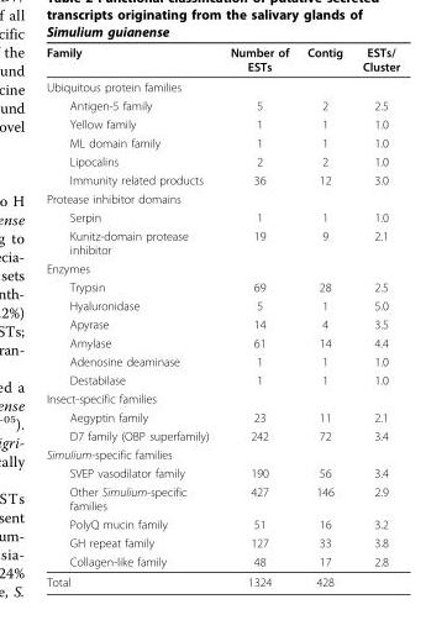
<table><thead><tr><td>Family</td><td>Number of ESTs</td><td>Contig</td><td>ESTs/ Cluster</td></tr></thead><tbody><tr><td colspan="4">Ubiquitous protein families</td></tr><tr><td>Antigen-5 family</td><td>5</td><td>2</td><td>2.5</td></tr><tr><td>Yellow family</td><td>1</td><td>1</td><td>1.0</td></tr><tr><td>ML domain family</td><td>1</td><td>1</td><td>1.0</td></tr><tr><td>Lipocalins</td><td>2</td><td>2</td><td>1.0</td></tr><tr><td>Immunity related products</td><td>36</td><td>12</td><td>3.0</td></tr><tr><td colspan="4">Protease inhibitor domains</td></tr><tr><td>Serpin</td><td>1</td><td>1</td><td>1.0</td></tr><tr><td>Kunitz-domain protease inhibitor</td><td>19</td><td>9</td><td>2.1</td></tr><tr><td colspan="4">Enzymes</td></tr><tr><td>Trypsin</td><td>69</td><td>28</td><td>2.5</td></tr><tr><td>Hyaluronidase</td><td>5</td><td>1</td><td>5.0</td></tr><tr><td>Apyrase</td><td>14</td><td>4</td><td>3.5</td></tr><tr><td>Amylase</td><td>61</td><td>14</td><td>4.4</td></tr><tr><td>Adenosine deaminase</td><td>1</td><td>1</td><td>1.0</td></tr><tr><td>Destabilase</td><td>1</td><td>1</td><td>1.0</td></tr><tr><td colspan="4">Insect-specific families</td></tr><tr><td>Aegyptin family</td><td>23</td><td>11</td><td>2.1</td></tr><tr><td>D7 family (OBP superfamily)</td><td>242</td><td>72</td><td>3.4</td></tr><tr><td colspan="4">Simulium-specific families</td></tr><tr><td>SVEP vasodilator family</td><td>190</td><td>56</td><td>3.4</td></tr><tr><td>Other Simulium-specific families</td><td>427</td><td>146</td><td>2.9</td></tr><tr><td>PolyQ mucin family</td><td>51</td><td>16</td><td>3.2</td></tr><tr><td>GH repeat family</td><td>127</td><td>33</td><td>3.8</td></tr><tr><td>Collagen-like family</td><td>48</td><td>17</td><td>2.8</td></tr><tr><td>Total</td><td>1324</td><td>428</td><td></td></tr></tbody></table>